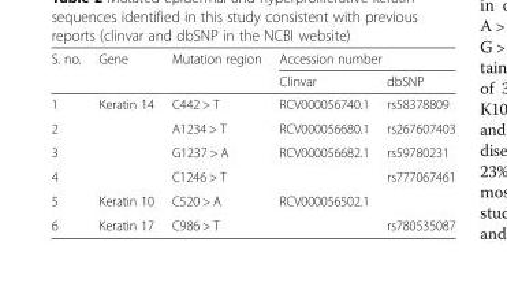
<table><thead><tr><td rowspan="2">S. no.</td><td rowspan="2">Gene</td><td rowspan="2">Mutation region</td><td colspan="2">Accession number</td></tr><tr><td>Clinvar</td><td>dbSNP</td></tr></thead><tbody><tr><td>1</td><td>Keratin 14</td><td>C442 &gt; T</td><td>RCV000056740.1</td><td>rs58378809</td></tr><tr><td>2</td><td></td><td>A1234 &gt; T</td><td>RCV000056680.1</td><td>rs267607403</td></tr><tr><td>3</td><td></td><td>G1237 &gt; A</td><td>RCV000056682.1</td><td>rs59780231</td></tr><tr><td>4</td><td></td><td>C1246 &gt; T</td><td></td><td>rs777067461</td></tr><tr><td>5</td><td>Keratin 10</td><td>C520 &gt; A</td><td>RCV000056502.1</td><td></td></tr><tr><td>6</td><td>Keratin 17</td><td>C986 &gt; T</td><td></td><td>rs780535087</td></tr></tbody></table>